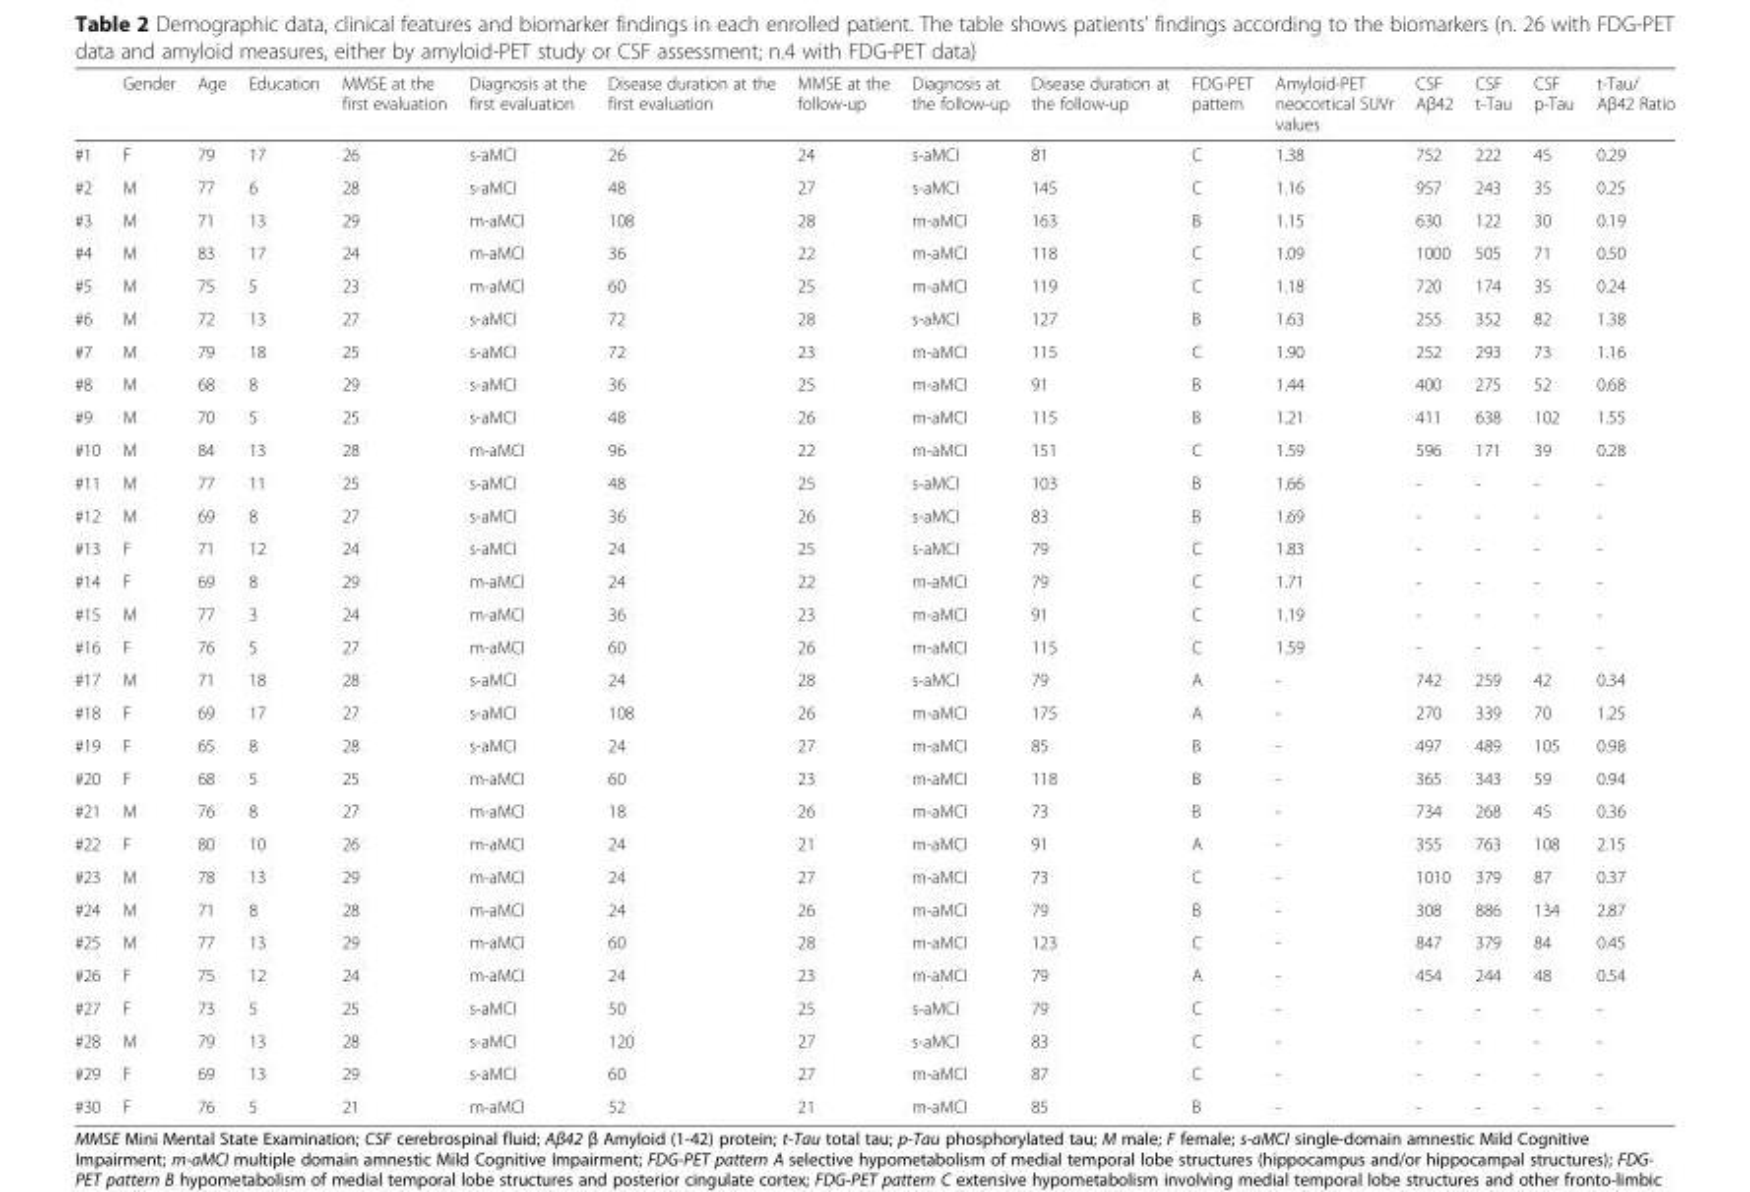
<table><thead><tr><td></td><td>Gender</td><td>Age</td><td>Education</td><td>MMSE at the first evaluation</td><td>Diagnosis at the first evaluation</td><td>Disease duration at the first evaluation</td><td>MMSE at the follow-up</td><td>Diagnosis at the follow-up</td><td>Disease duration at the follow-up</td><td>FDG-PET pattern</td><td>Amyloid-PET neocortical SUVr values</td><td>CSF Aβ42</td><td>CSF t-Tau</td><td>CSF p-Tau</td><td>t-Tau/ Aβ42 Ratio</td></tr></thead><tbody><tr><td>#1</td><td>F</td><td>79</td><td>17</td><td>26</td><td>s-aMCI</td><td>26</td><td>24</td><td>s-aMCI</td><td>81</td><td>C</td><td>1.38</td><td>752</td><td>222</td><td>45</td><td>0.29</td></tr><tr><td>#2</td><td>M</td><td>77</td><td>6</td><td>28</td><td>s-aMCI</td><td>48</td><td>27</td><td>s-aMCI</td><td>145</td><td>C</td><td>1.16</td><td>957</td><td>243</td><td>35</td><td>0.25</td></tr><tr><td>#3</td><td>M</td><td>71</td><td>13</td><td>29</td><td>m-aMCI</td><td>108</td><td>28</td><td>m-aMCI</td><td>163</td><td>B</td><td>1.15</td><td>630</td><td>122</td><td>30</td><td>0.19</td></tr><tr><td>#4</td><td>M</td><td>83</td><td>17</td><td>24</td><td>m-aMCI</td><td>36</td><td>22</td><td>m-aMCI</td><td>118</td><td>C</td><td>1.09</td><td>1000</td><td>505</td><td>71</td><td>0.50</td></tr><tr><td>#5</td><td>M</td><td>75</td><td>5</td><td>23</td><td>m-aMCI</td><td>60</td><td>25</td><td>m-aMCI</td><td>119</td><td>C</td><td>1.18</td><td>720</td><td>174</td><td>35</td><td>0.24</td></tr><tr><td>#6</td><td>M</td><td>72</td><td>13</td><td>27</td><td>s-aMCI</td><td>72</td><td>28</td><td>s-aMCI</td><td>127</td><td>B</td><td>1.63</td><td>255</td><td>352</td><td>82</td><td>1.38</td></tr><tr><td>#7</td><td>M</td><td>79</td><td>18</td><td>25</td><td>s-aMCI</td><td>72</td><td>23</td><td>m-aMCI</td><td>115</td><td>C</td><td>1.90</td><td>252</td><td>293</td><td>73</td><td>1.16</td></tr><tr><td>#8</td><td>M</td><td>68</td><td>8</td><td>29</td><td>s-aMCI</td><td>36</td><td>25</td><td>m-aMCI</td><td>91</td><td>B</td><td>1.44</td><td>400</td><td>275</td><td>52</td><td>0.68</td></tr><tr><td>#9</td><td>M</td><td>70</td><td>5</td><td>25</td><td>s-aMCI</td><td>48</td><td>26</td><td>m-aMCI</td><td>115</td><td>B</td><td>1.21</td><td>411</td><td>638</td><td>102</td><td>1.55</td></tr><tr><td>#10</td><td>M</td><td>84</td><td>13</td><td>28</td><td>m-aMCI</td><td>96</td><td>22</td><td>m-aMCI</td><td>151</td><td>C</td><td>1.59</td><td>596</td><td>171</td><td>39</td><td>0.28</td></tr><tr><td>#11</td><td>M</td><td>77</td><td>11</td><td>25</td><td>s-aMCI</td><td>48</td><td>25</td><td>s-aMCI</td><td>103</td><td>B</td><td>1.66</td><td>-</td><td>-</td><td>-</td><td>-</td></tr><tr><td>#12</td><td>M</td><td>69</td><td>8</td><td>27</td><td>s-aMCI</td><td>36</td><td>26</td><td>s-aMCI</td><td>83</td><td>B</td><td>1.69</td><td>-</td><td>-</td><td>-</td><td>-</td></tr><tr><td>#13</td><td>F</td><td>71</td><td>12</td><td>24</td><td>s-aMCI</td><td>24</td><td>25</td><td>s-aMCI</td><td>79</td><td>C</td><td>1.83</td><td>-</td><td>-</td><td>-</td><td>-</td></tr><tr><td>#14</td><td>F</td><td>69</td><td>8</td><td>29</td><td>m-aMCI</td><td>24</td><td>22</td><td>m-aMCI</td><td>79</td><td>C</td><td>1.71</td><td>-</td><td>-</td><td>-</td><td>-</td></tr><tr><td>#15</td><td>M</td><td>77</td><td>3</td><td>24</td><td>m-aMCI</td><td>36</td><td>23</td><td>m-aMCI</td><td>91</td><td>C</td><td>1.19</td><td>-</td><td>-</td><td>-</td><td>-</td></tr><tr><td>#16</td><td>F</td><td>76</td><td>5</td><td>27</td><td>m-aMCI</td><td>60</td><td>26</td><td>m-aMCI</td><td>115</td><td>C</td><td>1.59</td><td>-</td><td>-</td><td>-</td><td>-</td></tr><tr><td>#17</td><td>M</td><td>71</td><td>18</td><td>28</td><td>s-aMCI</td><td>24</td><td>28</td><td>s-aMCI</td><td>79</td><td>A</td><td>-</td><td>742</td><td>259</td><td>42</td><td>0.34</td></tr><tr><td>#18</td><td>F</td><td>69</td><td>17</td><td>27</td><td>s-aMCI</td><td>108</td><td>26</td><td>m-aMCI</td><td>175</td><td>A</td><td>-</td><td>270</td><td>339</td><td>70</td><td>1.25</td></tr><tr><td>#19</td><td>F</td><td>65</td><td>8</td><td>28</td><td>s-aMCI</td><td>24</td><td>27</td><td>m-aMCI</td><td>85</td><td>B</td><td>-</td><td>497</td><td>489</td><td>105</td><td>0.98</td></tr><tr><td>#20</td><td>F</td><td>68</td><td>5</td><td>25</td><td>m-aMCI</td><td>60</td><td>23</td><td>m-aMCI</td><td>118</td><td>B</td><td>-</td><td>365</td><td>343</td><td>59</td><td>0.94</td></tr><tr><td>#21</td><td>M</td><td>76</td><td>8</td><td>27</td><td>m-aMCI</td><td>18</td><td>26</td><td>m-aMCI</td><td>73</td><td>B</td><td>-</td><td>734</td><td>268</td><td>45</td><td>0.36</td></tr><tr><td>#22</td><td>F</td><td>80</td><td>10</td><td>26</td><td>m-aMCI</td><td>24</td><td>21</td><td>m-aMCI</td><td>91</td><td>A</td><td>-</td><td>355</td><td>763</td><td>108</td><td>2.15</td></tr><tr><td>#23</td><td>M</td><td>78</td><td>13</td><td>29</td><td>m-aMCI</td><td>24</td><td>27</td><td>m-aMCI</td><td>73</td><td>C</td><td>-</td><td>1010</td><td>379</td><td>87</td><td>0.37</td></tr><tr><td>#24</td><td>M</td><td>71</td><td>8</td><td>28</td><td>m-aMCI</td><td>24</td><td>26</td><td>m-aMCI</td><td>79</td><td>B</td><td>-</td><td>308</td><td>886</td><td>134</td><td>2.87</td></tr><tr><td>#25</td><td>M</td><td>77</td><td>13</td><td>29</td><td>m-aMCI</td><td>60</td><td>28</td><td>m-aMCI</td><td>123</td><td>C</td><td>-</td><td>847</td><td>379</td><td>84</td><td>0.45</td></tr><tr><td>#26</td><td>F</td><td>75</td><td>12</td><td>24</td><td>m-aMCI</td><td>24</td><td>23</td><td>m-aMCI</td><td>79</td><td>A</td><td>-</td><td>454</td><td>244</td><td>48</td><td>0.54</td></tr><tr><td>#27</td><td>F</td><td>73</td><td>5</td><td>25</td><td>s-aMCI</td><td>50</td><td>25</td><td>s-aMCI</td><td>79</td><td>C</td><td>-</td><td>-</td><td>-</td><td>-</td><td>-</td></tr><tr><td>#28</td><td>M</td><td>79</td><td>13</td><td>28</td><td>s-aMCI</td><td>120</td><td>27</td><td>s-aMCI</td><td>83</td><td>C</td><td>-</td><td>-</td><td>-</td><td>-</td><td>-</td></tr><tr><td>#29</td><td>F</td><td>69</td><td>13</td><td>29</td><td>s-aMCI</td><td>60</td><td>27</td><td>m-aMCI</td><td>87</td><td>C</td><td>-</td><td>-</td><td>-</td><td>-</td><td>-</td></tr><tr><td>#30</td><td>F</td><td>76</td><td>5</td><td>21</td><td>m-aMCI</td><td>52</td><td>21</td><td>m-aMCI</td><td>85</td><td>B</td><td>-</td><td>-</td><td>-</td><td>-</td><td>-</td></tr></tbody></table>